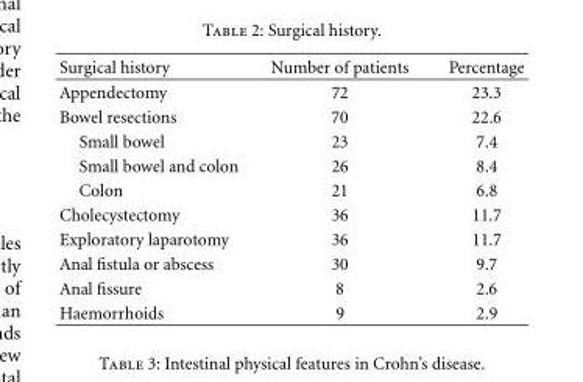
<table><thead><tr><td>Surgical history</td><td>Number of patients</td><td>Percentage</td></tr></thead><tbody><tr><td>Appendectomy</td><td>72</td><td>23.3</td></tr><tr><td>Bowel resections</td><td>70</td><td>22.6</td></tr><tr><td>Small bowel</td><td>23</td><td>7.4</td></tr><tr><td>Small bowel and colon</td><td>26</td><td>8.4</td></tr><tr><td>Colon</td><td>21</td><td>6.8</td></tr><tr><td>Cholecystectomy</td><td>36</td><td>11.7</td></tr><tr><td>Exploratory laparotomy</td><td>36</td><td>11.7</td></tr><tr><td>Anal fistula or abscess</td><td>30</td><td>9.7</td></tr><tr><td>Anal fissure</td><td>8</td><td>2.6</td></tr><tr><td>Haemorrhoids</td><td>9</td><td>2.9</td></tr></tbody></table>